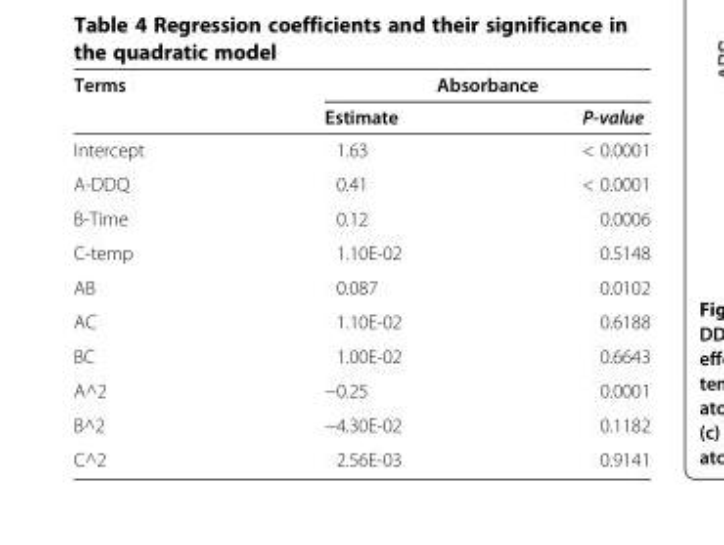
<table><thead><tr><td rowspan="2">Terms</td><td rowspan="2">Estimate</td><td rowspan="2">Absorbance P-value</td></tr><tr></tr></thead><tbody><tr><td>Intercept</td><td>1.63</td><td>&lt; 0.0001</td></tr><tr><td>A-DDQ</td><td>0.41</td><td>&lt; 0.0001</td></tr><tr><td>B-Time</td><td>0.12</td><td>0.0006</td></tr><tr><td>C-temp</td><td>1.10E-02</td><td>0.5148</td></tr><tr><td>AB</td><td>0.087</td><td>0.0102</td></tr><tr><td>AC</td><td>1.10E-02</td><td>0.6188</td></tr><tr><td>BC</td><td>1.00E-02</td><td>0.6643</td></tr><tr><td>A^2</td><td>−0.25</td><td>0.0001</td></tr><tr><td>B^2</td><td>−4.30E-02</td><td>0.1182</td></tr><tr><td>C^2</td><td>2.56E-03</td><td>0.9141</td></tr></tbody></table>